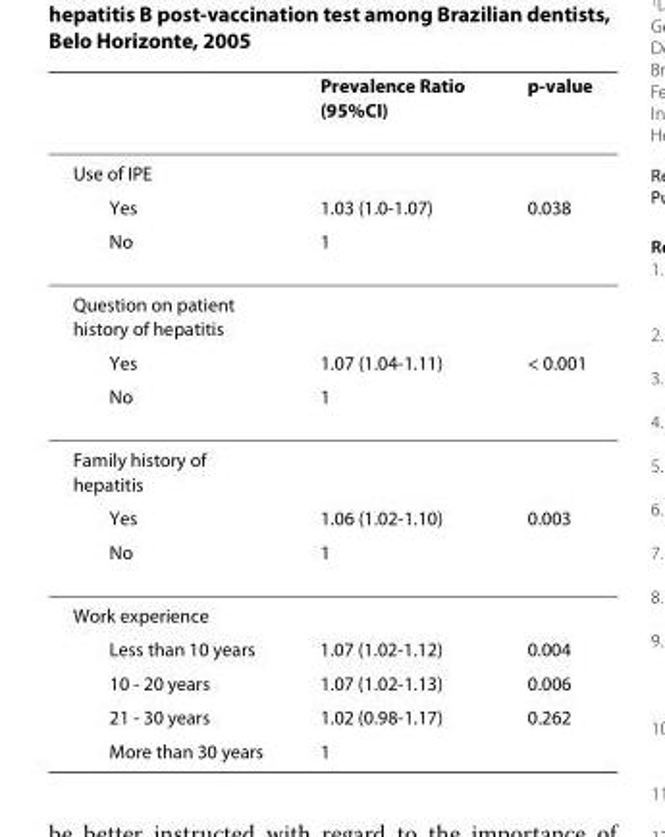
<table><thead><tr><td></td><td>Prevalence Ratio (95%CI)</td><td>p-value</td></tr></thead><tbody><tr><td colspan="3">Use of IPE</td></tr><tr><td>Yes</td><td>1.03 (1.0-1.07)</td><td>0.038</td></tr><tr><td>No</td><td>1</td><td></td></tr><tr><td colspan="3">Question on patient history of hepatitis</td></tr><tr><td>Yes</td><td>1.07 (1.04-1.11)</td><td>&lt; 0.001</td></tr><tr><td>No</td><td>1</td><td></td></tr><tr><td colspan="3">Family history of hepatitis</td></tr><tr><td>Yes</td><td>1.06 (1.02-1.10)</td><td>0.003</td></tr><tr><td>No</td><td>1</td><td></td></tr><tr><td colspan="3">Work experience</td></tr><tr><td>Less than 10 years</td><td>1.07 (1.02-1.12)</td><td>0.004</td></tr><tr><td>10 - 20 years</td><td>1.07 (1.02-1.13)</td><td>0.006</td></tr><tr><td>21 - 30 years</td><td>1.02 (0.98-1.17)</td><td>0.262</td></tr><tr><td>More than 30 years</td><td>1</td><td></td></tr></tbody></table>